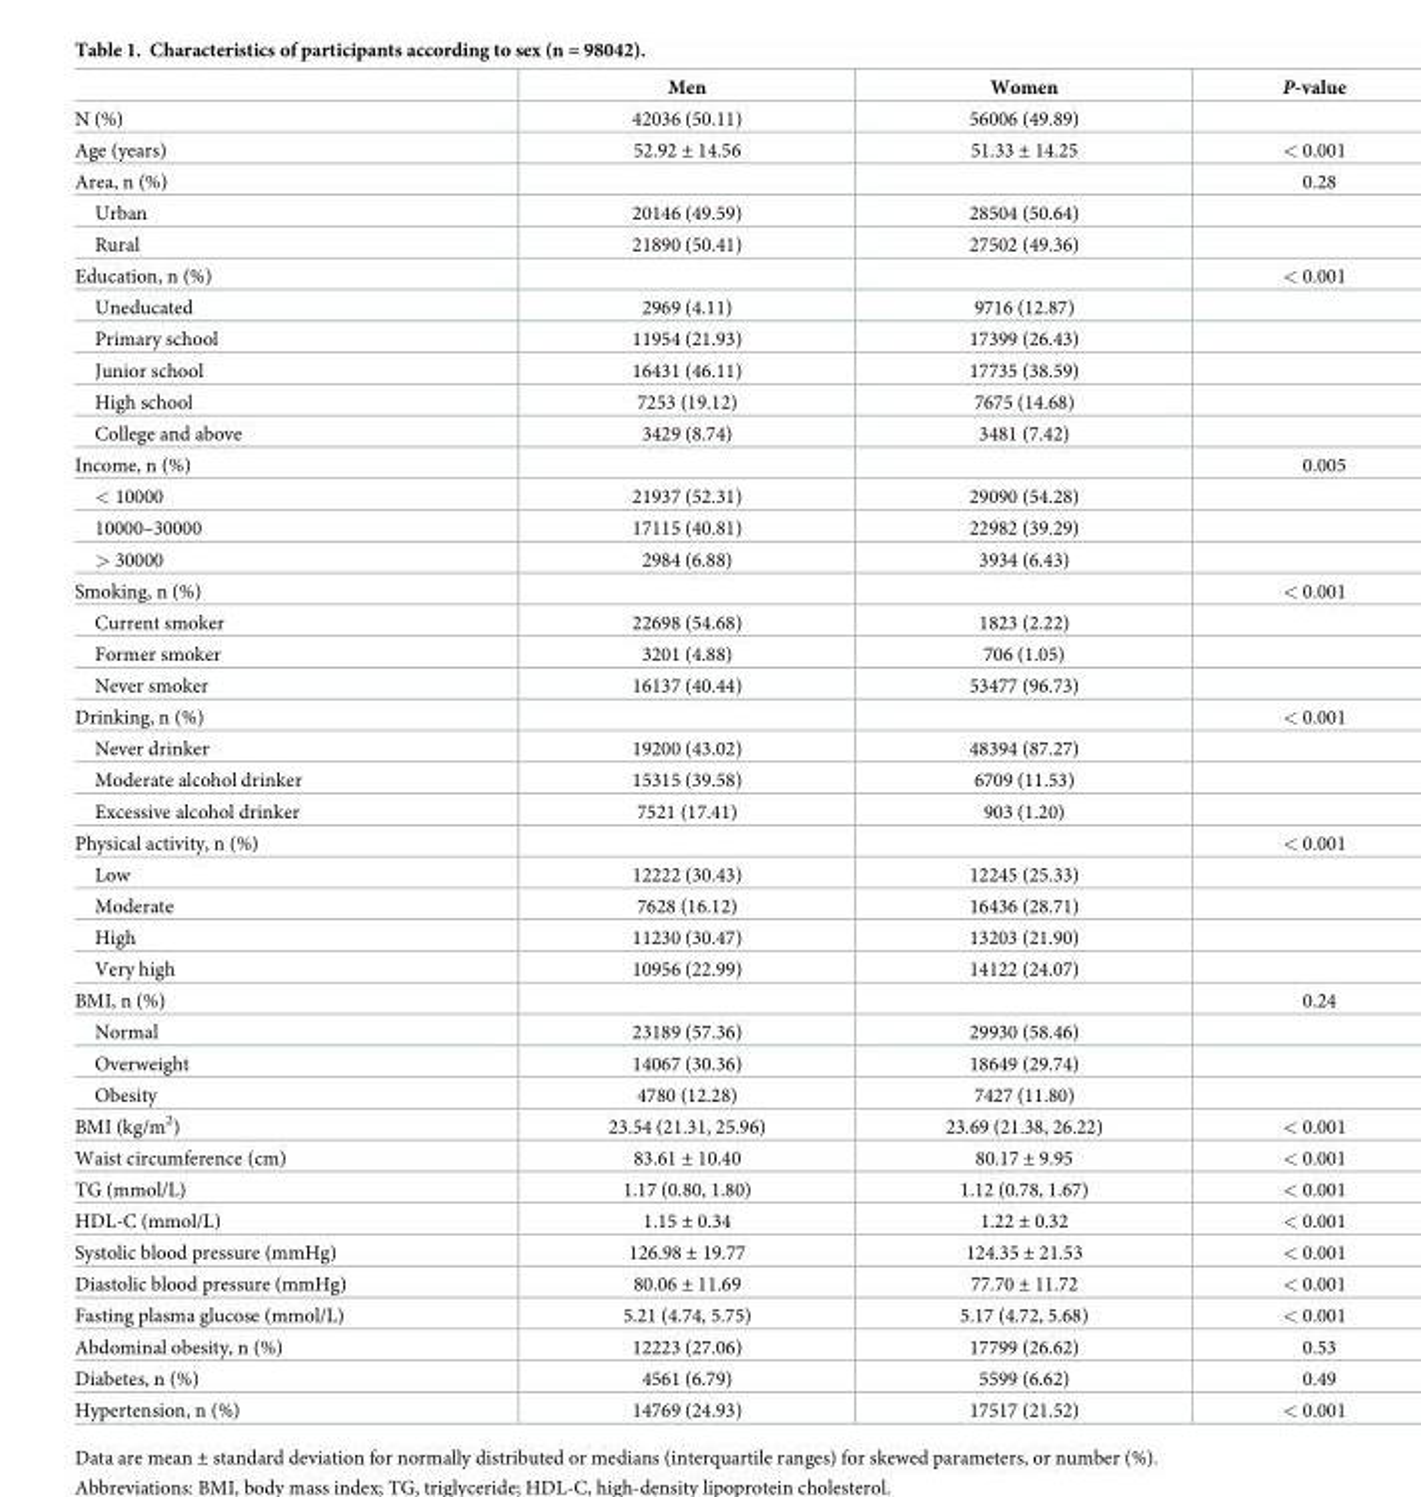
<table><thead><tr><td></td><td>Men</td><td>Women</td><td>P-value</td></tr></thead><tbody><tr><td>N (%)</td><td>42036 (50.11)</td><td>56006 (49.89)</td><td></td></tr><tr><td>Age (years)</td><td>52.92 ± 14.56</td><td>51.33 ± 14.25</td><td>&lt; 0.001</td></tr><tr><td>Area, n (%)</td><td></td><td></td><td>0.28</td></tr><tr><td>Urban</td><td>20146 (49.59)</td><td>28504 (50.64)</td><td></td></tr><tr><td>Rural</td><td>21890 (50.41)</td><td>27502 (49.36)</td><td></td></tr><tr><td>Education, n (%)</td><td></td><td></td><td>&lt; 0.001</td></tr><tr><td>Uneducated</td><td>2969 (4.11)</td><td>9716 (12.87)</td><td></td></tr><tr><td>Primary school</td><td>11954 (21.93)</td><td>17399 (26.43)</td><td></td></tr><tr><td>Junior school</td><td>16431 (46.11)</td><td>17735 (38.59)</td><td></td></tr><tr><td>High school</td><td>7253 (19.12)</td><td>7675 (14.68)</td><td></td></tr><tr><td>College and above</td><td>3429 (8.74)</td><td>3481 (7.42)</td><td></td></tr><tr><td>Income, n (%)</td><td></td><td></td><td>0.005</td></tr><tr><td>&lt; 10000</td><td>21937 (52.31)</td><td>29090 (54.28)</td><td></td></tr><tr><td>10000–30000</td><td>17115 (40.81)</td><td>22982 (39.29)</td><td></td></tr><tr><td>&gt; 30000</td><td>2984 (6.88)</td><td>3934 (6.43)</td><td></td></tr><tr><td>Smoking, n (%)</td><td></td><td></td><td>&lt; 0.001</td></tr><tr><td>Current smoker</td><td>22698 (54.68)</td><td>1823 (2.22)</td><td></td></tr><tr><td>Former smoker</td><td>3201 (4.88)</td><td>706 (1.05)</td><td></td></tr><tr><td>Never smoker</td><td>16137 (40.44)</td><td>53477 (96.73)</td><td></td></tr><tr><td>Drinking, n (%)</td><td></td><td></td><td>&lt; 0.001</td></tr><tr><td>Never drinker</td><td>19200 (43.02)</td><td>48394 (87.27)</td><td></td></tr><tr><td>Moderate alcohol drinker</td><td>15315 (39.58)</td><td>6709 (11.53)</td><td></td></tr><tr><td>Excessive alcohol drinker</td><td>7521 (17.41)</td><td>903 (1.20)</td><td></td></tr><tr><td>Physical activity, n (%)</td><td></td><td></td><td>&lt; 0.001</td></tr><tr><td>Low</td><td>12222 (30.43)</td><td>12245 (25.33)</td><td></td></tr><tr><td>Moderate</td><td>7628 (16.12)</td><td>16436 (28.71)</td><td></td></tr><tr><td>High</td><td>11230 (30.47)</td><td>13203 (21.90)</td><td></td></tr><tr><td>Very high</td><td>10956 (22.99)</td><td>14122 (24.07)</td><td></td></tr><tr><td>BMI, n (%)</td><td></td><td></td><td>0.24</td></tr><tr><td>Normal</td><td>23189 (57.36)</td><td>29930 (58.46)</td><td></td></tr><tr><td>Overweight</td><td>14067 (30.36)</td><td>18649 (29.74)</td><td></td></tr><tr><td>Obesity</td><td>4780 (12.28)</td><td>7427 (11.80)</td><td></td></tr><tr><td>BMI (kg/m<sup>2</sup>)</td><td>23.54 (21.31, 25.96)</td><td>23.69 (21.38, 26.22)</td><td>&lt; 0.001</td></tr><tr><td>Waist circumference (cm)</td><td>83.61 ± 10.40</td><td>80.17 ± 9.95</td><td>&lt; 0.001</td></tr><tr><td>TG (mmol/L)</td><td>1.17 (0.80, 1.80)</td><td>1.12 (0.78, 1.67)</td><td>&lt; 0.001</td></tr><tr><td>HDL-C (mmol/L)</td><td>1.15 ± 0.34</td><td>1.22 ± 0.32</td><td>&lt; 0.001</td></tr><tr><td>Systolic blood pressure (mmHg)</td><td>126.98 ± 19.77</td><td>124.35 ± 21.53</td><td>&lt; 0.001</td></tr><tr><td>Diastolic blood pressure (mmHg)</td><td>80.06 ± 11.69</td><td>77.70 ± 11.72</td><td>&lt; 0.001</td></tr><tr><td>Fasting plasma glucose (mmol/L)</td><td>5.21 (4.74, 5.75)</td><td>5.17 (4.72, 5.68)</td><td>&lt; 0.001</td></tr><tr><td>Abdominal obesity, n (%)</td><td>12223 (27.06)</td><td>17799 (26.62)</td><td>0.53</td></tr><tr><td>Diabetes, n (%)</td><td>4561 (6.79)</td><td>5599 (6.62)</td><td>0.49</td></tr><tr><td>Hypertension, n (%)</td><td>14769 (24.93)</td><td>17517 (21.52)</td><td>&lt; 0.001</td></tr></tbody></table>